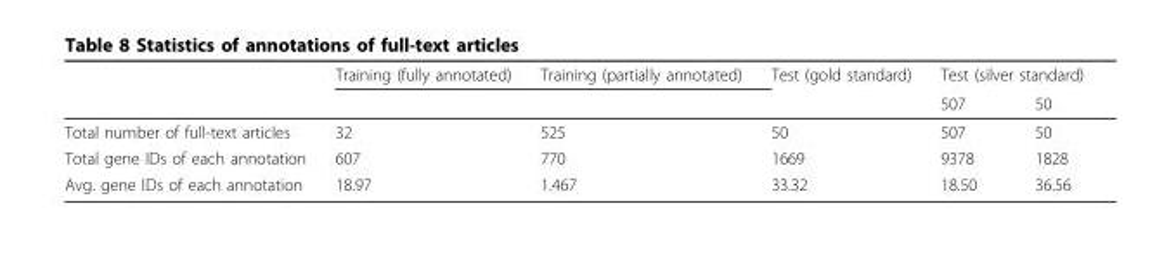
<table><thead><tr><td rowspan="2"></td><td rowspan="2">Training (fully annotated)</td><td rowspan="2">Training (partially annotated)</td><td rowspan="2">Test (gold standard)</td><td colspan="2">Test (silver standard)</td></tr><tr><td>507</td><td>50</td></tr></thead><tbody><tr><td>Total number of full-text articles</td><td>32</td><td>525</td><td>50</td><td>507</td><td>50</td></tr><tr><td>Total gene IDs of each annotation</td><td>607</td><td>770</td><td>1669</td><td>9378</td><td>1828</td></tr><tr><td>Avg. gene IDs of each annotation</td><td>18.97</td><td>1.467</td><td>33.32</td><td>18.50</td><td>36.56</td></tr></tbody></table>